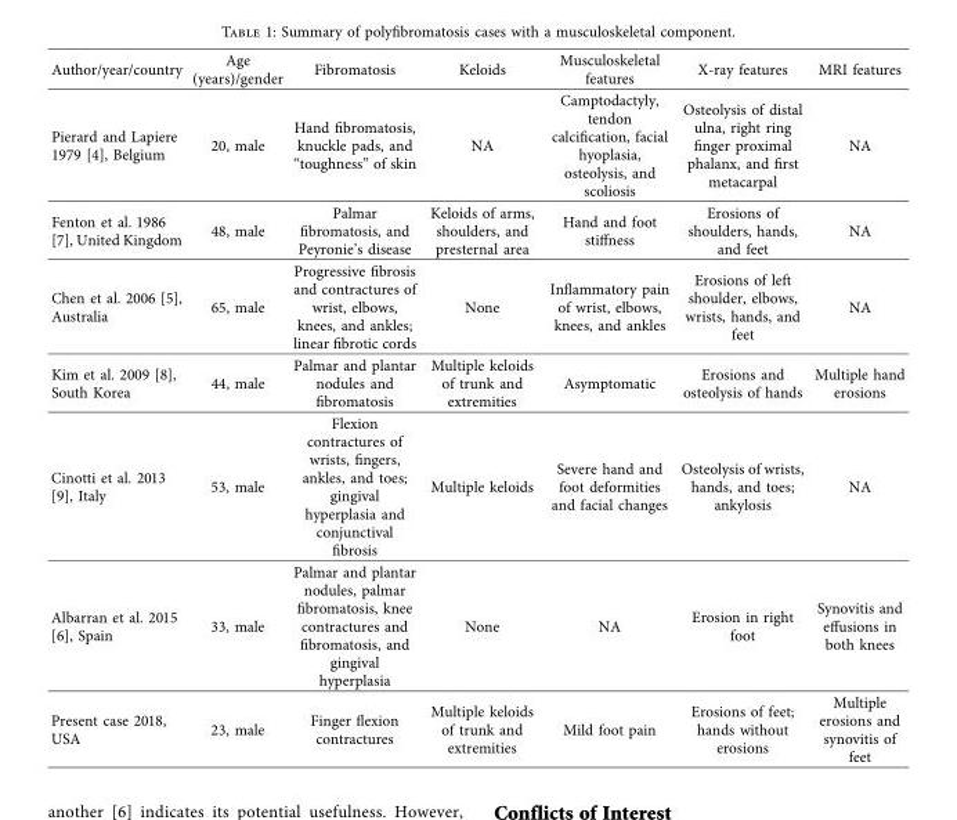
<table><thead><tr><td>Author/year/country</td><td>Age (years)/gender</td><td>Fibromatosis</td><td>Keloids</td><td>Musculoskeletal features</td><td>X-ray features</td><td>MRI features</td></tr></thead><tbody><tr><td>Pierard and Lapiere 1979 [4], Belgium</td><td>20, male</td><td>Hand fibromatosis, knuckle pads, and “toughness” of skin</td><td>NA</td><td>Camptodactyly, tendon calcification, facial hyoplasia, osteolysis, and scoliosis</td><td>Osteolysis of distal ulna, right ring finger proximal phalanx, and first metacarpal</td><td>NA</td></tr><tr><td>Fenton et al. 1986 [7], United Kingdom</td><td>48, male</td><td>Palmar fibromatosis, and Peyronie’s disease</td><td>Keloids of arms, shoulders, and presternal area</td><td>Hand and foot stiffness</td><td>Erosions of shoulders, hands, and feet</td><td>NA</td></tr><tr><td>Chen et al. 2006 [5], Australia</td><td>65, male</td><td>Progressive fibrosis and contractures of wrist, elbows, knees, and ankles; linear fibrotic cords</td><td>None</td><td>Inflammatory pain of wrist, elbows, knees, and ankles</td><td>Erosions of left shoulder, elbows, wrists, hands, and feet</td><td>NA</td></tr><tr><td>Kim et al. 2009 [8], South Korea</td><td>44, male</td><td>Palmar and plantar nodules and fibromatosis</td><td>Multiple keloids of trunk and extremities</td><td>Asymptomatic</td><td>Erosions and osteolysis of hands</td><td>Multiple hand erosions</td></tr><tr><td>Cinotti et al. 2013 [9], Italy</td><td>53, male</td><td>Flexion contractures of wrists, fingers, ankles, and toes; gingival hyperplasia and conjunctival fibrosis</td><td>Multiple keloids</td><td>Severe hand and foot deformities and facial changes</td><td>Osteolysis of wrists, hands, and toes; ankylosis</td><td>NA</td></tr><tr><td>Albarran et al. 2015 [6], Spain</td><td>33, male</td><td>Palmar and plantar nodules, palmar fibromatosis, knee contractures and fibromatosis, and gingival hyperplasia</td><td>None</td><td>NA</td><td>Erosion in right foot</td><td>Synovitis and effusions in both knees</td></tr><tr><td>Present case 2018, USA</td><td>23, male</td><td>Finger flexion contractures</td><td>Multiple keloids of trunk and extremities</td><td>Mild foot pain</td><td>Erosions of feet; hands without erosions</td><td>Multiple erosions and synovitis of feet</td></tr></tbody></table>